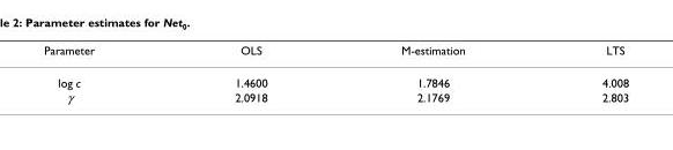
<table><thead><tr><td>Parameter</td><td>OLS</td><td>M-estimation</td><td>LTS</td></tr></thead><tbody><tr><td>log c</td><td>1.4600</td><td>1.7846</td><td>4.008</td></tr><tr><td>γ</td><td>2.0918</td><td>2.1769</td><td>2.803</td></tr></tbody></table>